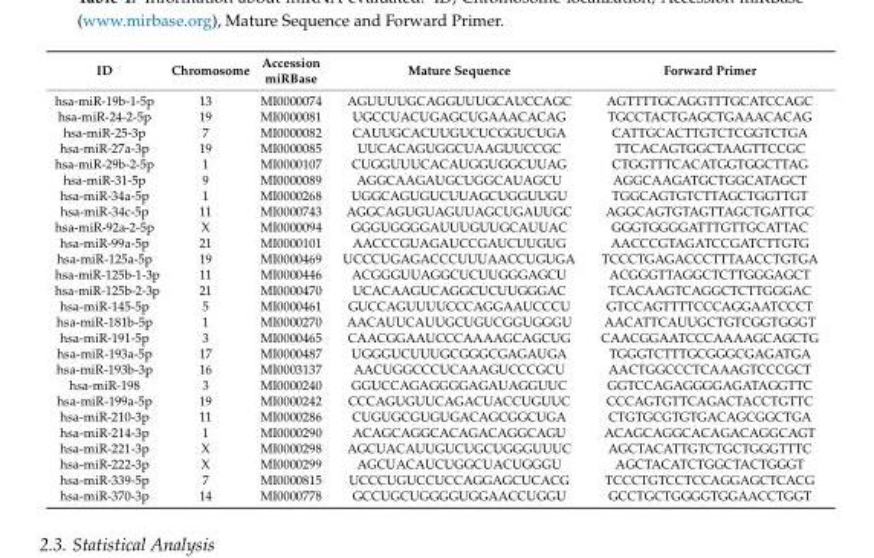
<table><thead><tr><td>ID</td><td>Chromosome</td><td>Accession miRBase</td><td>Mature Sequence</td><td>Forward Primer</td></tr></thead><tbody><tr><td>hsa-miR-19b-1-5p</td><td>13</td><td>MI0000074</td><td>AGUUUUGCAGGUUUGCAUCCAGC</td><td>AGTTTTGCAGGTTTGCATCCAGC</td></tr><tr><td>hsa-miR-24-2-5p</td><td>19</td><td>MI0000081</td><td>UGCCUACUGAGCUGAAACACAG</td><td>TGCCTACTGAGCTGAAACACAG</td></tr><tr><td>hsa-miR-25-3p</td><td>7</td><td>MI0000082</td><td>CAUUGCACUUGUCUCGGUCUGA</td><td>CATTGCACTTGTCTCGGTCTGA</td></tr><tr><td>hsa-miR-27a-3p</td><td>19</td><td>MI0000085</td><td>UUCACAGUGGCUAAGUUCCGC</td><td>TTCACAGTGGCTAAGTTCCGC</td></tr><tr><td>hsa-miR-29b-2-5p</td><td>1</td><td>MI0000107</td><td>CUGGUUUCACAUGGUGGCUUAG</td><td>CTGGTTTCACATGGTGGCTTAG</td></tr><tr><td>hsa-miR-31-5p</td><td>9</td><td>MI0000089</td><td>AGGCAAGAUGCUGGCAUAGCU</td><td>AGGCAAGATGCTGGCATAGCT</td></tr><tr><td>hsa-miR-34a-5p</td><td>1</td><td>MI0000268</td><td>UGGCAGUGUCUUAGCUGGUUGU</td><td>TGGCAGTGTCTTAGCTGGTTGT</td></tr><tr><td>hsa-miR-34c-5p</td><td>11</td><td>MI0000743</td><td>AGGCAGUGUAGUUAGCUGAUUGC</td><td>AGGCAGTGTAGTTAGCTGATTGC</td></tr><tr><td>hsa-miR-92a-2-5p</td><td>X</td><td>MI0000094</td><td>GGGUGGGGAUUUGUUGCAUUAC</td><td>GGGTGGGGATTTGTTGCATTAC</td></tr><tr><td>hsa-miR-99a-5p</td><td>21</td><td>MI0000101</td><td>AACCCGUAGAUCCGAUCUUGUG</td><td>AACCCGTAGATCCGATCTTGTG</td></tr><tr><td>hsa-miR-125a-5p</td><td>19</td><td>MI0000469</td><td>UCCCUGAGACCCUUUAACCUGUGA</td><td>TCCCTGAGACCCTTTAACCTGTGA</td></tr><tr><td>hsa-miR-125b-1-3p</td><td>11</td><td>MI0000446</td><td>ACGGGUUAGGCUCUUGGGAGCU</td><td>ACGGGTTAGGCTCTTGGGAGCT</td></tr><tr><td>hsa-miR-125b-2-3p</td><td>21</td><td>MI0000470</td><td>UCACAAGUCAGGCUCUUGGGAC</td><td>TCACAAGTCAGGCTCTTGGGAC</td></tr><tr><td>hsa-miR-145-5p</td><td>5</td><td>MI0000461</td><td>GUCCAGUUUUCCCAGGAAUCCCU</td><td>GTCCAGTTTTCCCAGGAATCCCT</td></tr><tr><td>hsa-miR-181b-5p</td><td>1</td><td>MI0000270</td><td>AACAUUCAUUGCUGUCGGUGGGU</td><td>AACATTCAUUGCTGTCGGTGGGT</td></tr><tr><td>hsa-miR-191-5p</td><td>3</td><td>MI0000465</td><td>CAACGGAAUCCCAAAAGCAGCUG</td><td>CAACGGAATCCCAAAAGCAGCTG</td></tr><tr><td>hsa-miR-193a-5p</td><td>17</td><td>MI0000487</td><td>UGGGUCUUUGCGGGCGAGAUGA</td><td>TGGGTCTTTGCGGGCGAGATGA</td></tr><tr><td>hsa-miR-193b-3p</td><td>16</td><td>MI0003137</td><td>AACUGGCCCUCAAAGUCCCGCU</td><td>AACTGGCCCTCAAAGTCCCGCT</td></tr><tr><td>hsa-miR-198</td><td>3</td><td>MI0000240</td><td>GGUCCAGAGGGGAGAUAGGUUC</td><td>GGTCCAGAGGGGAGATAGGTTC</td></tr><tr><td>hsa-miR-199a-5p</td><td>19</td><td>MI0000242</td><td>CCCAGUGUUCAGACUACCUGUUC</td><td>CCCAGTGTTCAGACTACCTGTTC</td></tr><tr><td>hsa-miR-210-3p</td><td>11</td><td>MI0000286</td><td>CUGUGCGUGUGACAGCGGCUGA</td><td>CTGTGCGTGTGACAGCGGCTGA</td></tr><tr><td>hsa-miR-214-3p</td><td>1</td><td>MI0000290</td><td>ACAGCAGGCACAGACAGGCAGU</td><td>ACAGCAGGCACAGACAGGCAGT</td></tr><tr><td>hsa-miR-221-3p</td><td>X</td><td>MI0000298</td><td>AGCUACAUUGUCUGCUGGGUUUC</td><td>AGCTACATTGTCTGCTGGGTTTC</td></tr><tr><td>hsa-miR-222-3p</td><td>X</td><td>MI0000299</td><td>AGCUACAUCUGGCUACUGGGU</td><td>AGCTACATCTGGCTACTGGGT</td></tr><tr><td>hsa-miR-339-5p</td><td>7</td><td>MI0000815</td><td>UCCCUGUCCUCCAGGAGCUCACG</td><td>TCCCTGTCCTCCAGGAGCTCACG</td></tr><tr><td>hsa-miR-370-3p</td><td>14</td><td>MI0000778</td><td>GCCUGCUGGGGUGGAACCUGGU</td><td>GCCTGCTGGGGTGGAACCTGGT</td></tr></tbody></table>